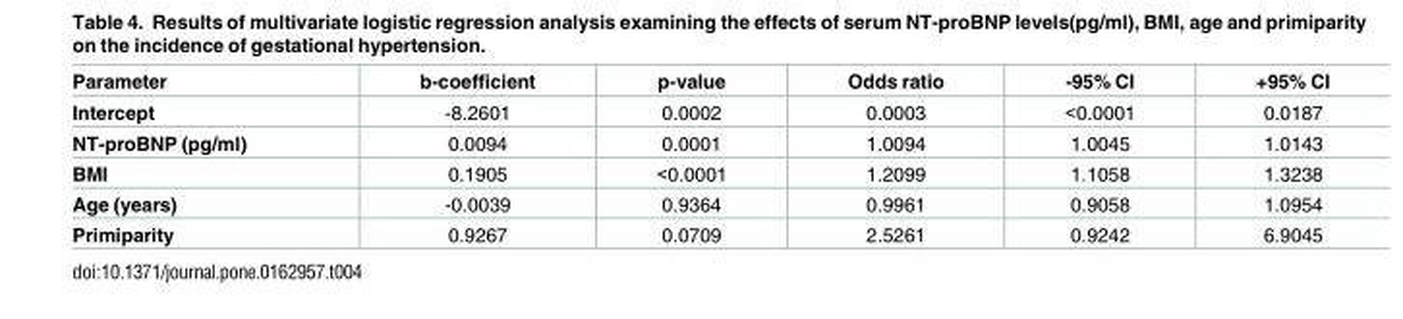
<table><thead><tr><td>Parameter</td><td>b-coefficient</td><td>p-value</td><td>Odds ratio</td><td>-95% CI</td><td>+95% CI</td></tr></thead><tbody><tr><td>Intercept</td><td>-8.2601</td><td>0.0002</td><td>0.0003</td><td>&lt;0.0001</td><td>0.0187</td></tr><tr><td>NT-proBNP (pg/ml)</td><td>0.0094</td><td>0.0001</td><td>1.0094</td><td>1.0045</td><td>1.0143</td></tr><tr><td>BMI</td><td>0.1905</td><td>&lt;0.0001</td><td>1.2099</td><td>1.1058</td><td>1.3238</td></tr><tr><td>Age (years)</td><td>-0.0039</td><td>0.9364</td><td>0.9961</td><td>0.9058</td><td>1.0954</td></tr><tr><td>Primiparity</td><td>0.9267</td><td>0.0709</td><td>2.5261</td><td>0.9242</td><td>6.9045</td></tr></tbody></table>